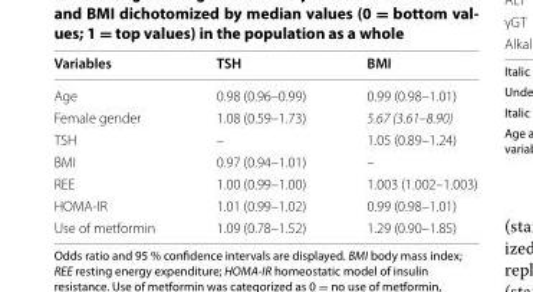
<table><thead><tr><td>Variables</td><td>TSH</td><td>BMI</td></tr></thead><tbody><tr><td>Age</td><td>0.98 (0.96–0.99)</td><td>0.99 (0.98–1.01)</td></tr><tr><td>Female gender</td><td>1.08 (0.59–1.73)</td><td>5.67 (3.61–8.90)</td></tr><tr><td>TSH</td><td>–</td><td>1.05 (0.89–1.24)</td></tr><tr><td>BMI</td><td>0.97 (0.94–1.01)</td><td>–</td></tr><tr><td>REE</td><td>1.00 (0.99–1.00)</td><td>1.003 (1.002–1.003)</td></tr><tr><td>HOMA-IR</td><td>1.01 (0.99–1.02)</td><td>0.99 (0.98–1.01)</td></tr><tr><td>Use of metformin</td><td>1.09 (0.78–1.52)</td><td>1.29 (0.90–1.85)</td></tr></tbody></table>